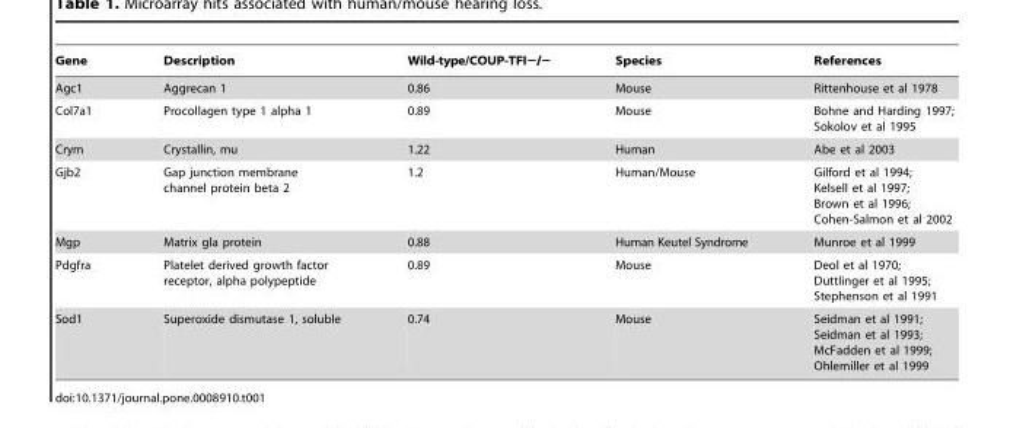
<table><thead><tr><td>Gene</td><td>Description</td><td>Wild-type/COUP-TFI−/−</td><td>Species</td><td>References</td></tr></thead><tbody><tr><td>Agc1</td><td>Aggrecan 1</td><td>0.86</td><td>Mouse</td><td>Rittenhouse et al 1978</td></tr><tr><td>Col7a1</td><td>Procollagen type 1 alpha 1</td><td>0.89</td><td>Mouse</td><td>Bohne and Harding 1997; Sokolov et al 1995</td></tr><tr><td>Crym</td><td>Crystallin, mu</td><td>1.22</td><td>Human</td><td>Abe et al 2003</td></tr><tr><td>Gjb2</td><td>Gap junction membrane channel protein beta 2</td><td>1.2</td><td>Human/Mouse</td><td>Gilford et al 1994; Kelsell et al 1997; Brown et al 1996; Cohen-Salmon et al 2002</td></tr><tr><td>Mgp</td><td>Matrix gla protein</td><td>0.88</td><td>Human Keutel Syndrome</td><td>Munroe et al 1999</td></tr><tr><td>Pdgfra</td><td>Platelet derived growth factor receptor, alpha polypeptide</td><td>0.89</td><td>Mouse</td><td>Deol et al 1970; Duttlinger et al 1995; Stephenson et al 1991</td></tr><tr><td>Sod1</td><td>Superoxide dismutase 1, soluble</td><td>0.74</td><td>Mouse</td><td>Seidman et al 1991; Seidman et al 1993; McFadden et al 1999; Ohlemiller et al 1999</td></tr></tbody></table>